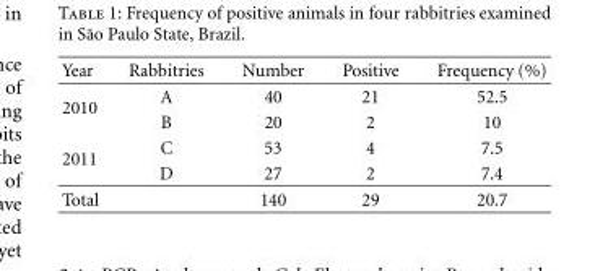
<table><thead><tr><td>Year</td><td>Rabbitries</td><td>Number</td><td>Positive</td><td>Frequency (%)</td></tr></thead><tbody><tr><td rowspan="2">2010</td><td>A</td><td>40</td><td>21</td><td>52.5</td></tr><tr><td>B</td><td>20</td><td>2</td><td>10</td></tr><tr><td rowspan="2">2011</td><td>C</td><td>53</td><td>4</td><td>7.5</td></tr><tr><td>D</td><td>27</td><td>2</td><td>7.4</td></tr><tr><td>Total</td><td></td><td>140</td><td>29</td><td>20.7</td></tr></tbody></table>